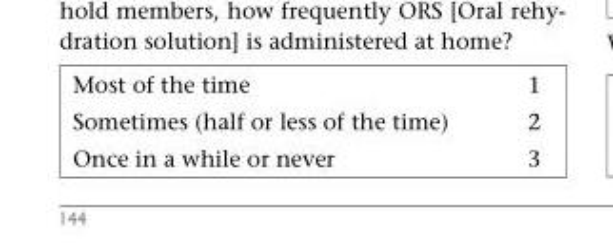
<table><tbody><tr><td>Most of the time</td><td>1</td></tr><tr><td>Sometimes (half or less of the time)</td><td>2</td></tr><tr><td>Once in a while or never</td><td>3</td></tr></tbody></table>